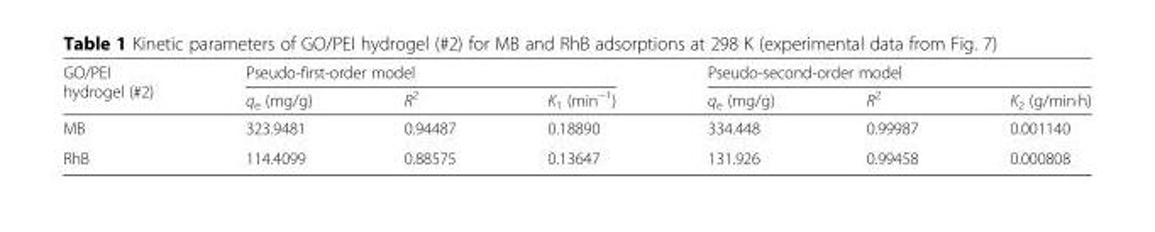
<table><thead><tr><td rowspan="2">GO/PEI hydrogel (#2)</td><td colspan="3">Pseudo-first-order model</td><td colspan="3">Pseudo-second-order model</td></tr><tr><td>q<sub>e</sub> (mg/g)</td><td>R<sup>2</sup></td><td>K<sub>1</sub> (min<sup>−1</sup>)</td><td>q<sub>e</sub> (mg/g)</td><td>R<sup>2</sup></td><td>K<sub>2</sub> (g/min·h)</td></tr></thead><tbody><tr><td>MB</td><td>323.9481</td><td>0.94487</td><td>0.18890</td><td>334.448</td><td>0.99987</td><td>0.001140</td></tr><tr><td>RhB</td><td>114.4099</td><td>0.88575</td><td>0.13647</td><td>131.926</td><td>0.99458</td><td>0.000808</td></tr></tbody></table>